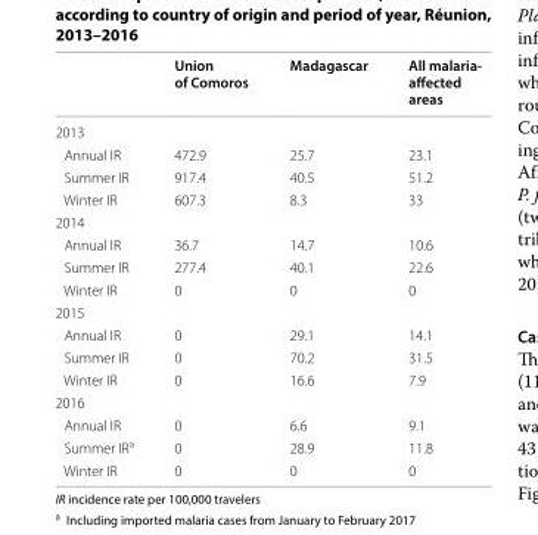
<table><thead><tr><td></td><td>Union of Comoros</td><td>Madagascar</td><td>All malaria- affected areas</td></tr></thead><tbody><tr><td colspan="4">2013</td></tr><tr><td>Annual IR</td><td>472.9</td><td>25.7</td><td>23.1</td></tr><tr><td>Summer IR</td><td>917.4</td><td>40.5</td><td>51.2</td></tr><tr><td>Winter IR</td><td>607.3</td><td>8.3</td><td>33</td></tr><tr><td colspan="4">2014</td></tr><tr><td>Annual IR</td><td>36.7</td><td>14.7</td><td>10.6</td></tr><tr><td>Summer IR</td><td>277.4</td><td>40.1</td><td>22.6</td></tr><tr><td>Winter IR</td><td>0</td><td>0</td><td>0</td></tr><tr><td colspan="4">2015</td></tr><tr><td>Annual IR</td><td>0</td><td>29.1</td><td>14.1</td></tr><tr><td>Summer IR</td><td>0</td><td>70.2</td><td>31.5</td></tr><tr><td>Winter IR</td><td>0</td><td>16.6</td><td>7.9</td></tr><tr><td colspan="4">2016</td></tr><tr><td>Annual IR</td><td>0</td><td>6.6</td><td>9.1</td></tr><tr><td>Summer IR<sup>a</sup></td><td>0</td><td>28.9</td><td>11.8</td></tr><tr><td>Winter IR</td><td>0</td><td>0</td><td>0</td></tr></tbody></table>